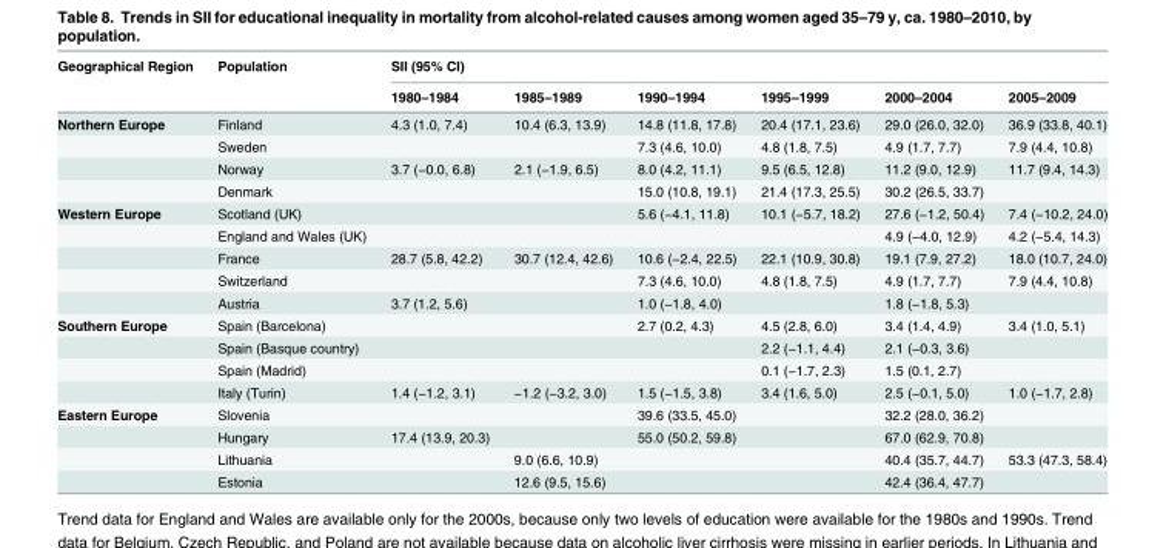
<table><thead><tr><td rowspan="2">Geographical Region</td><td rowspan="2">Population</td><td colspan="6">SII (95% CI)</td></tr><tr><td>1980–1984</td><td>1985–1989</td><td>1990–1994</td><td>1995–1999</td><td>2000–2004</td><td>2005–2009</td></tr></thead><tbody><tr><td rowspan="4">Northern Europe</td><td>Finland</td><td>4.3 (1.0, 7.4)</td><td>10.4 (6.3, 13.9)</td><td>14.8 (11.8, 17.8)</td><td>20.4 (17.1, 23.6)</td><td>29.0 (26.0, 32.0)</td><td>36.9 (33.8, 40.1)</td></tr><tr><td>Sweden</td><td></td><td></td><td>7.3 (4.6, 10.0)</td><td>4.8 (1.8, 7.5)</td><td>4.9 (1.7, 7.7)</td><td>7.9 (4.4, 10.8)</td></tr><tr><td>Norway</td><td>3.7 (−0.0, 6.8)</td><td>2.1 (−1.9, 6.5)</td><td>8.0 (4.2, 11.1)</td><td>9.5 (6.5, 12.8)</td><td>11.2 (9.0, 12.9)</td><td>11.7 (9.4, 14.3)</td></tr><tr><td>Denmark</td><td></td><td></td><td>15.0 (10.8, 19.1)</td><td>21.4 (17.3, 25.5)</td><td>30.2 (26.5, 33.7)</td><td></td></tr><tr><td rowspan="5">Western Europe</td><td>Scotland (UK)</td><td></td><td></td><td>5.6 (−4.1, 11.8)</td><td>10.1 (−5.7, 18.2)</td><td>27.6 (−1.2, 50.4)</td><td>7.4 (−10.2, 24.0)</td></tr><tr><td>England and Wales (UK)</td><td></td><td></td><td></td><td></td><td>4.9 (−4.0, 12.9)</td><td>4.2 (−5.4, 14.3)</td></tr><tr><td>France</td><td>28.7 (5.8, 42.2)</td><td>30.7 (12.4, 42.6)</td><td>10.6 (−2.4, 22.5)</td><td>22.1 (10.9, 30.8)</td><td>19.1 (7.9, 27.2)</td><td>18.0 (10.7, 24.0)</td></tr><tr><td>Switzerland</td><td></td><td></td><td>7.3 (4.6, 10.0)</td><td>4.8 (1.8, 7.5)</td><td>4.9 (1.7, 7.7)</td><td>7.9 (4.4, 10.8)</td></tr><tr><td>Austria</td><td>3.7 (1.2, 5.6)</td><td></td><td>1.0 (−1.8, 4.0)</td><td></td><td>1.8 (−1.8, 5.3)</td><td></td></tr><tr><td rowspan="4">Southern Europe</td><td>Spain (Barcelona)</td><td></td><td></td><td>2.7 (0.2, 4.3)</td><td>4.5 (2.8, 6.0)</td><td>3.4 (1.4, 4.9)</td><td>3.4 (1.0, 5.1)</td></tr><tr><td>Spain (Basque country)</td><td></td><td></td><td></td><td>2.2 (−1.1, 4.4)</td><td>2.1 (−0.3, 3.6)</td><td></td></tr><tr><td>Spain (Madrid)</td><td></td><td></td><td></td><td>0.1 (−1.7, 2.3)</td><td>1.5 (0.1, 2.7)</td><td></td></tr><tr><td>Italy (Turin)</td><td>1.4 (−1.2, 3.1)</td><td>−1.2 (−3.2, 3.0)</td><td>1.5 (−1.5, 3.8)</td><td>3.4 (1.6, 5.0)</td><td>2.5 (−0.1, 5.0)</td><td>1.0 (−1.7, 2.8)</td></tr><tr><td rowspan="4">Eastern Europe</td><td>Slovenia</td><td></td><td></td><td>39.6 (33.5, 45.0)</td><td></td><td>32.2 (28.0, 36.2)</td><td></td></tr><tr><td>Hungary</td><td>17.4 (13.9, 20.3)</td><td></td><td>55.0 (50.2, 59.8)</td><td></td><td>67.0 (62.9, 70.8)</td><td></td></tr><tr><td>Lithuania</td><td></td><td>9.0 (6.6, 10.9)</td><td></td><td></td><td>40.4 (35.7, 44.7)</td><td>53.3 (47.3, 58.4)</td></tr><tr><td>Estonia</td><td></td><td>12.6 (9.5, 15.6)</td><td></td><td></td><td>42.4 (36.4, 47.7)</td><td></td></tr></tbody></table>